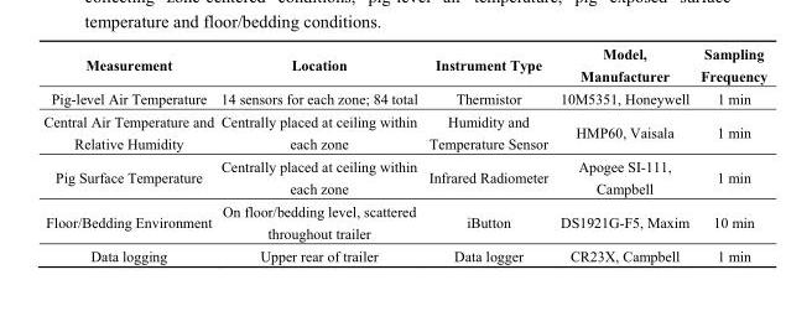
<table><thead><tr><td>Measurement</td><td>Location</td><td>Instrument Type</td><td>Model, Manufacturer</td><td>Sampling Frequency</td></tr></thead><tbody><tr><td>Pig-level Air Temperature</td><td>14 sensors for each zone; 84 total</td><td>Thermistor</td><td>10M5351, Honeywell</td><td>1 min</td></tr><tr><td>Central Air Temperature and Relative Humidity</td><td>Centrally placed at ceiling within each zone</td><td>Humidity and Temperature Sensor</td><td>HMP60, Vaisala</td><td>1 min</td></tr><tr><td>Pig Surface Temperature</td><td>Centrally placed at ceiling within each zone</td><td>Infrared Radiometer</td><td>Apogee SI-111, Campbell</td><td>1 min</td></tr><tr><td>Floor/Bedding Environment</td><td>On floor/bedding level, scattered throughout trailer</td><td>iButton</td><td>DS1921G-F5, Maxim</td><td>10 min</td></tr><tr><td>Data logging</td><td>Upper rear of trailer</td><td>Data logger</td><td>CR23X, Campbell</td><td>1 min</td></tr></tbody></table>